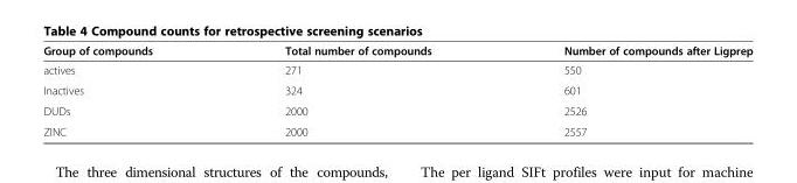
<table><thead><tr><td>Group of compounds</td><td>Total number of compounds</td><td>Number of compounds after Ligprep</td></tr></thead><tbody><tr><td>actives</td><td>271</td><td>550</td></tr><tr><td>Inactives</td><td>324</td><td>601</td></tr><tr><td>DUDs</td><td>2000</td><td>2526</td></tr><tr><td>ZINC</td><td>2000</td><td>2557</td></tr></tbody></table>